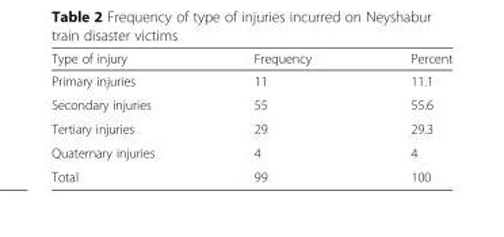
<table><thead><tr><td>Type of injury</td><td>Frequency</td><td>Percent</td></tr></thead><tbody><tr><td>Primary injuries</td><td>11</td><td>11.1</td></tr><tr><td>Secondary injuries</td><td>55</td><td>55.6</td></tr><tr><td>Tertiary injuries</td><td>29</td><td>29.3</td></tr><tr><td>Quaternary injuries</td><td>4</td><td>4</td></tr><tr><td>Total</td><td>99</td><td>100</td></tr></tbody></table>